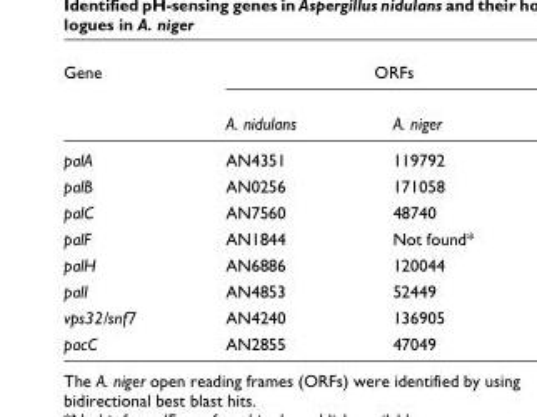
<table><thead><tr><td rowspan="2">Gene</td><td colspan="2">ORFs</td></tr><tr><td>A. nidulans</td><td>A. niger</td></tr></thead><tbody><tr><td>palA</td><td>AN4351</td><td>119792</td></tr><tr><td>palB</td><td>AN0256</td><td>171058</td></tr><tr><td>palC</td><td>AN7560</td><td>48740</td></tr><tr><td>palF</td><td>AN1844</td><td>Not found*</td></tr><tr><td>palH</td><td>AN6886</td><td>120044</td></tr><tr><td>palI</td><td>AN4853</td><td>52449</td></tr><tr><td>vps32/snf7</td><td>AN4240</td><td>136905</td></tr><tr><td>pacC</td><td>AN2855</td><td>47049</td></tr></tbody></table>